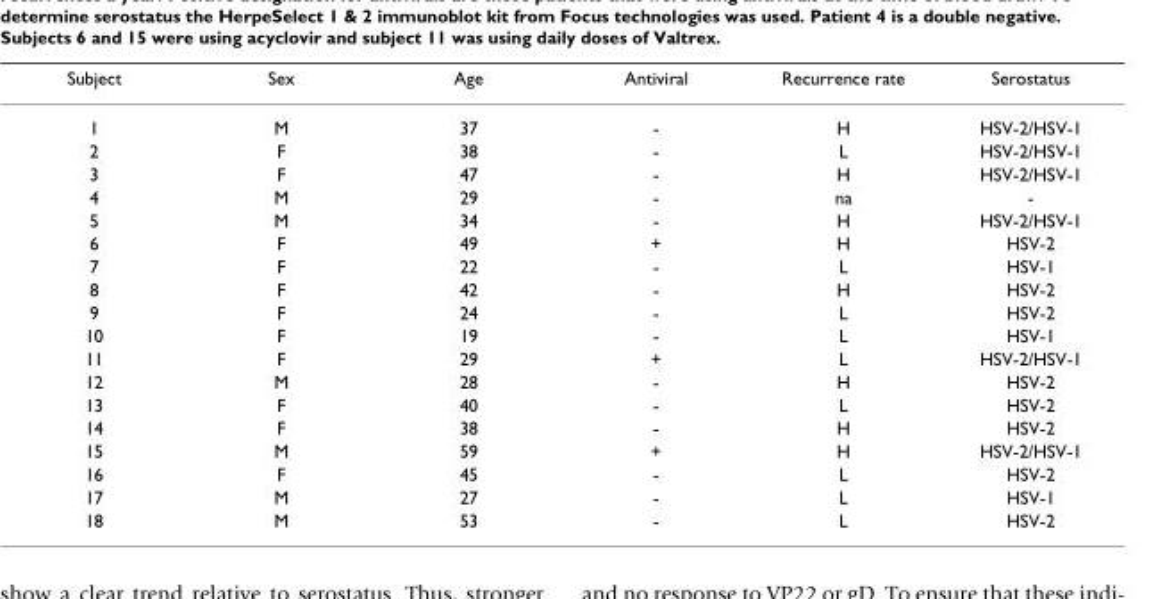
<table><thead><tr><td>Subject</td><td>Sex</td><td>Age</td><td>Antiviral</td><td>Recurrence rate</td><td>Serostatus</td></tr></thead><tbody><tr><td>1</td><td>M</td><td>37</td><td>-</td><td>H</td><td>HSV-2/HSV-1</td></tr><tr><td>2</td><td>F</td><td>38</td><td>-</td><td>L</td><td>HSV-2/HSV-1</td></tr><tr><td>3</td><td>F</td><td>47</td><td>-</td><td>H</td><td>HSV-2/HSV-1</td></tr><tr><td>4</td><td>M</td><td>29</td><td>-</td><td>na</td><td>-</td></tr><tr><td>5</td><td>M</td><td>34</td><td>-</td><td>H</td><td>HSV-2/HSV-1</td></tr><tr><td>6</td><td>F</td><td>49</td><td>+</td><td>H</td><td>HSV-2</td></tr><tr><td>7</td><td>F</td><td>22</td><td>-</td><td>L</td><td>HSV-1</td></tr><tr><td>8</td><td>F</td><td>42</td><td>-</td><td>H</td><td>HSV-2</td></tr><tr><td>9</td><td>F</td><td>24</td><td>-</td><td>L</td><td>HSV-2</td></tr><tr><td>10</td><td>F</td><td>19</td><td>-</td><td>L</td><td>HSV-1</td></tr><tr><td>11</td><td>F</td><td>29</td><td>+</td><td>L</td><td>HSV-2/HSV-1</td></tr><tr><td>12</td><td>M</td><td>28</td><td>-</td><td>H</td><td>HSV-2</td></tr><tr><td>13</td><td>F</td><td>40</td><td>-</td><td>L</td><td>HSV-2</td></tr><tr><td>14</td><td>F</td><td>38</td><td>-</td><td>H</td><td>HSV-2</td></tr><tr><td>15</td><td>M</td><td>59</td><td>+</td><td>H</td><td>HSV-2/HSV-1</td></tr><tr><td>16</td><td>F</td><td>45</td><td>-</td><td>L</td><td>HSV-2</td></tr><tr><td>17</td><td>M</td><td>27</td><td>-</td><td>L</td><td>HSV-1</td></tr><tr><td>18</td><td>M</td><td>53</td><td>-</td><td>L</td><td>HSV-2</td></tr></tbody></table>